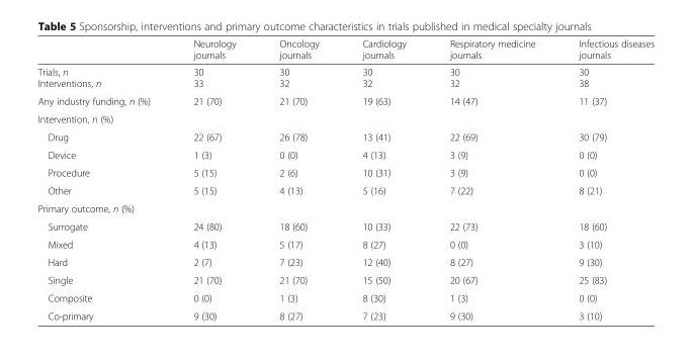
<table><thead><tr><td></td><td>Neurology journals</td><td>Oncology journals</td><td>Cardiology journals</td><td>Respiratory medicine journals</td><td>Infectious diseases journals</td></tr></thead><tbody><tr><td>Trials, n Interventions, n</td><td>30 33</td><td>30 32</td><td>30 32</td><td>30 32</td><td>30 38</td></tr><tr><td>Any industry funding, n (%)</td><td>21 (70)</td><td>21 (70)</td><td>19 (63)</td><td>14 (47)</td><td>11 (37)</td></tr><tr><td colspan="6">Intervention, n (%)</td></tr><tr><td>Drug</td><td>22 (67)</td><td>26 (78)</td><td>13 (41)</td><td>22 (69)</td><td>30 (79)</td></tr><tr><td>Device</td><td>1 (3)</td><td>0 (0)</td><td>4 (13)</td><td>3 (9)</td><td>0 (0)</td></tr><tr><td>Procedure</td><td>5 (15)</td><td>2 (6)</td><td>10 (31)</td><td>3 (9)</td><td>0 (0)</td></tr><tr><td>Other</td><td>5 (15)</td><td>4 (13)</td><td>5 (16)</td><td>7 (22)</td><td>8 (21)</td></tr><tr><td colspan="6">Primary outcome, n (%)</td></tr><tr><td>Surrogate</td><td>24 (80)</td><td>18 (60)</td><td>10 (33)</td><td>22 (73)</td><td>18 (60)</td></tr><tr><td>Mixed</td><td>4 (13)</td><td>5 (17)</td><td>8 (27)</td><td>0 (0)</td><td>3 (10)</td></tr><tr><td>Hard</td><td>2 (7)</td><td>7 (23)</td><td>12 (40)</td><td>8 (27)</td><td>9 (30)</td></tr><tr><td>Single</td><td>21 (70)</td><td>21 (70)</td><td>15 (50)</td><td>20 (67)</td><td>25 (83)</td></tr><tr><td>Composite</td><td>0 (0)</td><td>1 (3)</td><td>8 (30)</td><td>1 (3)</td><td>0 (0)</td></tr><tr><td>Co-primary</td><td>9 (30)</td><td>8 (27)</td><td>7 (23)</td><td>9 (30)</td><td>3 (10)</td></tr></tbody></table>